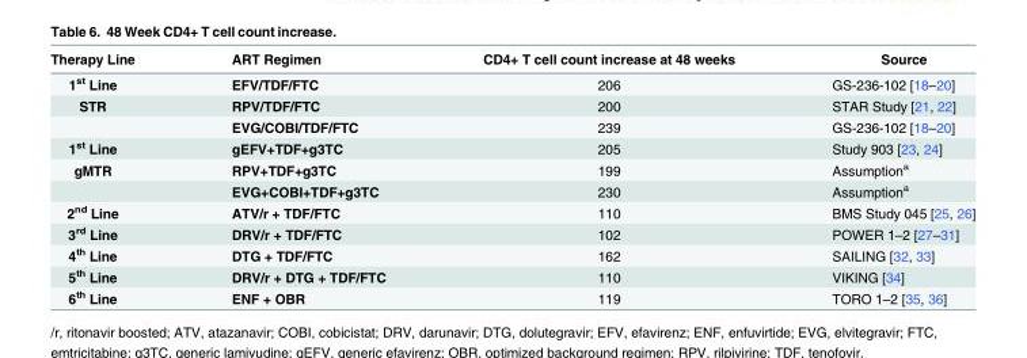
<table><thead><tr><td>Therapy Line</td><td>ART Regimen</td><td>CD4+ T cell count increase at 48 weeks</td><td>Source</td></tr></thead><tbody><tr><td>1<sup>st</sup> Line</td><td>EFV/TDF/FTC</td><td>206</td><td>GS-236-102 [18–20]</td></tr><tr><td rowspan="2">STR</td><td>RPV/TDF/FTC</td><td>200</td><td>STAR Study [21, 22]</td></tr><tr><td>EVG/COBI/TDF/FTC</td><td>239</td><td>GS-236-102 [18–20]</td></tr><tr><td>1<sup>st</sup> Line</td><td>gEFV+TDF+g3TC</td><td>205</td><td>Study 903 [23, 24]</td></tr><tr><td rowspan="2">gMTR</td><td>RPV+TDF+g3TC</td><td>199</td><td>Assumption<sup>a</sup></td></tr><tr><td>EVG+COBI+TDF+g3TC</td><td>230</td><td>Assumption<sup>a</sup></td></tr><tr><td>2<sup>nd</sup> Line</td><td>ATV/r + TDF/FTC</td><td>110</td><td>BMS Study 045 [25, 26]</td></tr><tr><td>3<sup>rd</sup> Line</td><td>DRV/r + TDF/FTC</td><td>102</td><td>POWER 1–2 [27–31]</td></tr><tr><td>4<sup>th</sup> Line</td><td>DTG + TDF/FTC</td><td>162</td><td>SAILING [32, 33]</td></tr><tr><td>5<sup>th</sup> Line</td><td>DRV/r + DTG + TDF/FTC</td><td>110</td><td>VIKING [34]</td></tr><tr><td>6<sup>th</sup> Line</td><td>ENF + OBR</td><td>119</td><td>TORO 1–2 [35, 36]</td></tr></tbody></table>